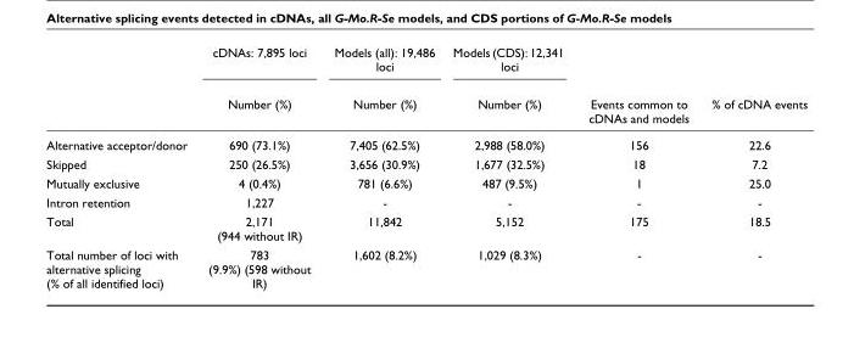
<table><thead><tr><td rowspan="2"></td><td rowspan="2">cDNAs: 7,895 loci Number (%)</td><td rowspan="2">Models (all): 19,486 loci Number (%)</td><td rowspan="2">Models (CDS): 12,341 loci Number (%)</td><td rowspan="2">Events common to cDNAs and models</td><td rowspan="2">% of cDNA events</td></tr><tr></tr></thead><tbody><tr><td>Alternative acceptor/donor</td><td>690 (73.1%)</td><td>7,405 (62.5%)</td><td>2,988 (58.0%)</td><td>156</td><td>22.6</td></tr><tr><td>Skipped</td><td>250 (26.5%)</td><td>3,656 (30.9%)</td><td>1,677 (32.5%)</td><td>18</td><td>7.2</td></tr><tr><td>Mutually exclusive</td><td>4 (0.4%)</td><td>781 (6.6%)</td><td>487 (9.5%)</td><td>1</td><td>25.0</td></tr><tr><td>Intron retention</td><td>1,227</td><td>-</td><td>-</td><td>-</td><td>-</td></tr><tr><td>Total</td><td>2,171 (944 without IR)</td><td>11,842</td><td>5,152</td><td>175</td><td>18.5</td></tr><tr><td>Total number of loci with alternative splicing (% of all identified loci)</td><td>783 (9.9%) (598 without IR)</td><td>1,602 (8.2%)</td><td>1,029 (8.3%)</td><td>-</td><td>-</td></tr></tbody></table>